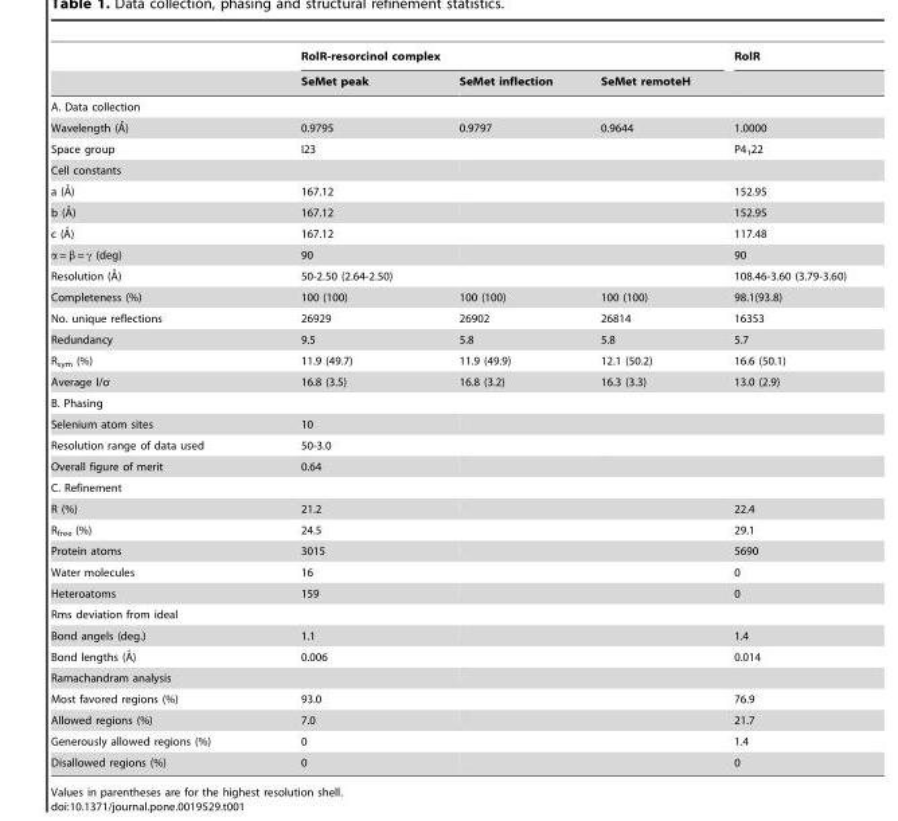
<table><thead><tr><td rowspan="2"></td><td colspan="3">RolR-resorcinol complex</td><td rowspan="2">RolR</td></tr><tr><td>SeMet peak</td><td>SeMet inflection</td><td>SeMet remoteH</td></tr></thead><tbody><tr><td colspan="5">A. Data collection</td></tr><tr><td>Wavelength (A˚)</td><td>0.9795</td><td>0.9797</td><td>0.9644</td><td>1.0000</td></tr><tr><td>Space group</td><td>I23</td><td></td><td></td><td>P4<sub>1</sub>22</td></tr><tr><td colspan="5">Cell constants</td></tr><tr><td>a (A˚)</td><td>167.12</td><td></td><td></td><td>152.95</td></tr><tr><td>b (A˚)</td><td>167.12</td><td></td><td></td><td>152.95</td></tr><tr><td>c (A˚)</td><td>167.12</td><td></td><td></td><td>117.48</td></tr><tr><td>α = β = γ (deg)</td><td>90</td><td></td><td></td><td>90</td></tr><tr><td>Resolution (A˚)</td><td>50-2.50 (2.64-2.50)</td><td></td><td></td><td>108.46-3.60 (3.79-3.60)</td></tr><tr><td>Completeness (%)</td><td>100 (100)</td><td>100 (100)</td><td>100 (100)</td><td>98.1(93.8)</td></tr><tr><td>No. unique reflections</td><td>26929</td><td>26902</td><td>26814</td><td>16353</td></tr><tr><td>Redundancy</td><td>9.5</td><td>5.8</td><td>5.8</td><td>5.7</td></tr><tr><td>R<sub>sym</sub> (%)</td><td>11.9 (49.7)</td><td>11.9 (49.9)</td><td>12.1 (50.2)</td><td>16.6 (50.1)</td></tr><tr><td>Average I/o˙</td><td>16.8 (3.5)</td><td>16.8 (3.2)</td><td>16.3 (3.3)</td><td>13.0 (2.9)</td></tr><tr><td colspan="5">B. Phasing</td></tr><tr><td>Selenium atom sites</td><td>10</td><td></td><td></td><td></td></tr><tr><td>Resolution range of data used</td><td>50-3.0</td><td></td><td></td><td></td></tr><tr><td>Overall figure of merit</td><td>0.64</td><td></td><td></td><td></td></tr><tr><td colspan="5">C. Refinement</td></tr><tr><td>R (%)</td><td>21.2</td><td></td><td></td><td>22.4</td></tr><tr><td>R<sub>free</sub> (%)</td><td>24.5</td><td></td><td></td><td>29.1</td></tr><tr><td>Protein atoms</td><td>3015</td><td></td><td></td><td>5690</td></tr><tr><td>Water molecules</td><td>16</td><td></td><td></td><td>0</td></tr><tr><td>Heteroatoms</td><td>159</td><td></td><td></td><td>0</td></tr><tr><td colspan="5">Rms deviation from ideal</td></tr><tr><td>Bond angels (deg.)</td><td>1.1</td><td></td><td></td><td>1.4</td></tr><tr><td>Bond lengths (A˚)</td><td>0.006</td><td></td><td></td><td>0.014</td></tr><tr><td colspan="5">Ramachandram analysis</td></tr><tr><td>Most favored regions (%)</td><td>93.0</td><td></td><td></td><td>76.9</td></tr><tr><td>Allowed regions (%)</td><td>7.0</td><td></td><td></td><td>21.7</td></tr><tr><td>Generously allowed regions (%)</td><td>0</td><td></td><td></td><td>1.4</td></tr><tr><td>Disallowed regions (%)</td><td>0</td><td></td><td></td><td>0</td></tr></tbody></table>